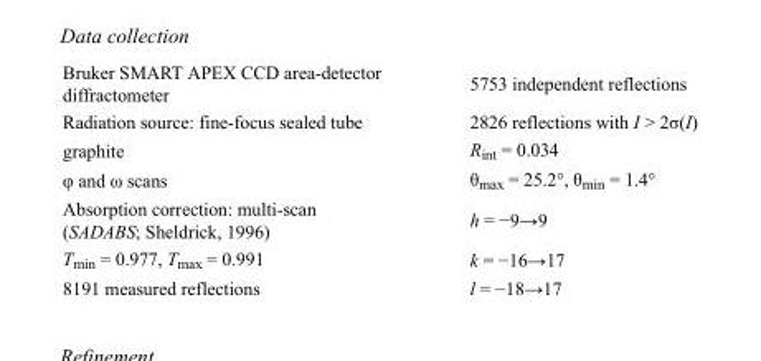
<table><tbody><tr><td>Bruker SMART APEX CCD area-detector diffractometer</td><td>5753 independent reflections</td></tr><tr><td>Radiation source: fine-focus sealed tube</td><td>2826 reflections with I &gt; 2σ(I)</td></tr><tr><td>graphite</td><td>R<sub>int</sub> = 0.034</td></tr><tr><td>φ and ω scans</td><td>θ<sub>max</sub> = 25.2°, θ<sub>min</sub> = 1.4°</td></tr><tr><td>Absorption correction: multi-scan (SADABS; Sheldrick, 1996)</td><td>h = −9→9</td></tr><tr><td>T<sub>min</sub> = 0.977, T<sub>max</sub> = 0.991</td><td>k = −16→17</td></tr><tr><td>8191 measured reflections</td><td>l = −18→17</td></tr></tbody></table>